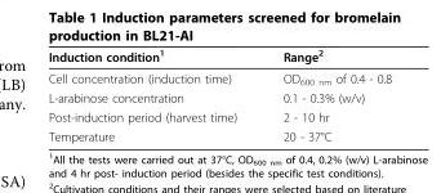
<table><thead><tr><td>Induction condition<sup>1</sup></td><td>Range<sup>2</sup></td></tr></thead><tbody><tr><td>Cell concentration (induction time)</td><td>OD<sub>600 nm</sub> of 0.4 - 0.8</td></tr><tr><td>L-arabinose concentration</td><td>0.1 - 0.3% (w/v)</td></tr><tr><td>Post-induction period (harvest time)</td><td>2 - 10 hr</td></tr><tr><td>Temperature</td><td>20 - 37°C</td></tr></tbody></table>